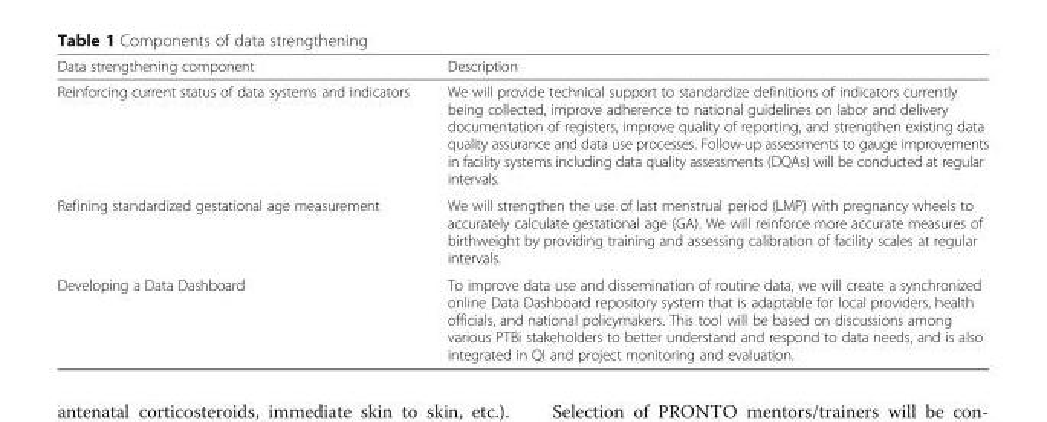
<table><thead><tr><td>Data strengthening component</td><td>Description</td></tr></thead><tbody><tr><td>Reinforcing current status of data systems and indicators</td><td>We will provide technical support to standardize definitions of indicators currently being collected, improve adherence to national guidelines on labor and delivery documentation of registers, improve quality of reporting, and strengthen existing data quality assurance and data use processes. Follow-up assessments to gauge improvements in facility systems including data quality assessments (DQAs) will be conducted at regular intervals.</td></tr><tr><td>Refining standardized gestational age measurement</td><td>We will strengthen the use of last menstrual period (LMP) with pregnancy wheels to accurately calculate gestational age (GA). We will reinforce more accurate measures of birthweight by providing training and assessing calibration of facility scales at regular intervals.</td></tr><tr><td>Developing a Data Dashboard</td><td>To improve data use and dissemination of routine data, we will create a synchronized online Data Dashboard repository system that is adaptable for local providers, health officials, and national policymakers. This tool will be based on discussions among various PTBi stakeholders to better understand and respond to data needs, and is also integrated in QI and project monitoring and evaluation.</td></tr></tbody></table>